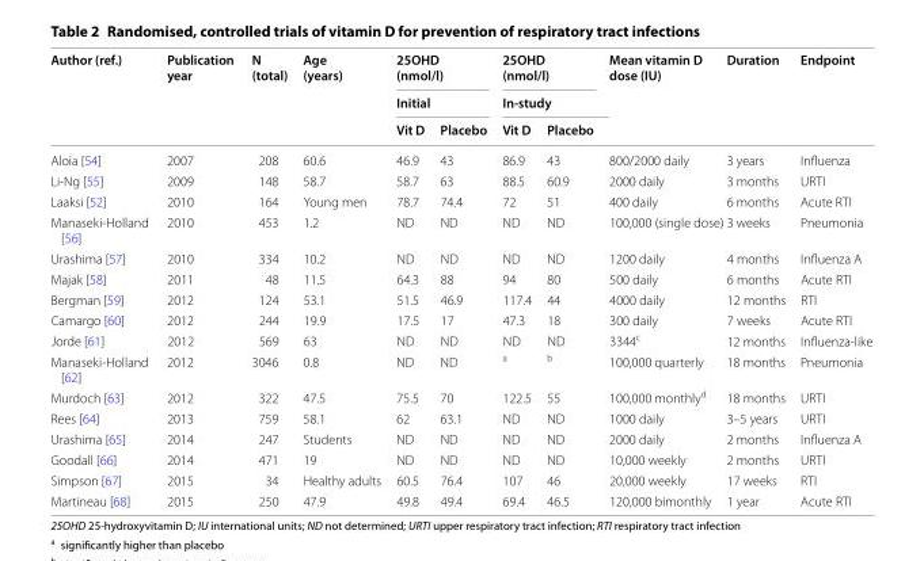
<table><thead><tr><td rowspan="3">Author (ref.)</td><td rowspan="3">Publication year</td><td rowspan="3">N (total)</td><td rowspan="3">Age (years)</td><td rowspan="2" colspan="2">25OHD (nmol/l) Initial</td><td rowspan="2" colspan="2">25OHD (nmol/l) In-study</td><td rowspan="3">Mean vitamin D dose (IU)</td><td rowspan="3">Duration</td><td rowspan="3">Endpoint</td></tr><tr></tr><tr><td>Vit D</td><td>Placebo</td><td>Vit D</td><td>Placebo</td></tr></thead><tbody><tr><td>Aloia [54]</td><td>2007</td><td>208</td><td>60.6</td><td>46.9</td><td>43</td><td>86.9</td><td>43</td><td>800/2000 daily</td><td>3 years</td><td>Influenza</td></tr><tr><td>Li-Ng [55]</td><td>2009</td><td>148</td><td>58.7</td><td>58.7</td><td>63</td><td>88.5</td><td>60.9</td><td>2000 daily</td><td>3 months</td><td>URTI</td></tr><tr><td>Laaksi [52]</td><td>2010</td><td>164</td><td>Young men</td><td>78.7</td><td>74.4</td><td>72</td><td>51</td><td>400 daily</td><td>6 months</td><td>Acute RTI</td></tr><tr><td>Manaseki-Holland [56]</td><td>2010</td><td>453</td><td>1.2</td><td>ND</td><td>ND</td><td>ND</td><td>ND</td><td>100,000 (single dose)</td><td>3 weeks</td><td>Pneumonia</td></tr><tr><td>Urashima [57]</td><td>2010</td><td>334</td><td>10.2</td><td>ND</td><td>ND</td><td>ND</td><td>ND</td><td>1200 daily</td><td>4 months</td><td>Influenza A</td></tr><tr><td>Majak [58]</td><td>2011</td><td>48</td><td>11.5</td><td>64.3</td><td>88</td><td>94</td><td>80</td><td>500 daily</td><td>6 months</td><td>Acute RTI</td></tr><tr><td>Bergman [59]</td><td>2012</td><td>124</td><td>53.1</td><td>51.5</td><td>46.9</td><td>117.4</td><td>44</td><td>4000 daily</td><td>12 months</td><td>RTI</td></tr><tr><td>Camargo [60]</td><td>2012</td><td>244</td><td>19.9</td><td>17.5</td><td>17</td><td>47.3</td><td>18</td><td>300 daily</td><td>7 weeks</td><td>Acute RTI</td></tr><tr><td>Jorde [61]</td><td>2012</td><td>569</td><td>63</td><td>ND</td><td>ND</td><td>ND</td><td>ND</td><td>3344<sup>c</sup></td><td>12 months</td><td>Influenza-like</td></tr><tr><td>Manaseki-Holland [62]</td><td>2012</td><td>3046</td><td>0.8</td><td>ND</td><td>ND</td><td><sup>a</sup></td><td><sup>b</sup></td><td>100,000 quarterly</td><td>18 months</td><td>Pneumonia</td></tr><tr><td>Murdoch [63]</td><td>2012</td><td>322</td><td>47.5</td><td>75.5</td><td>70</td><td>122.5</td><td>55</td><td>100,000 monthly<sup>d</sup></td><td>18 months</td><td>URTI</td></tr><tr><td>Rees [64]</td><td>2013</td><td>759</td><td>58.1</td><td>62</td><td>63.1</td><td>ND</td><td>ND</td><td>1000 daily</td><td>3–5 years</td><td>URTI</td></tr><tr><td>Urashima [65]</td><td>2014</td><td>247</td><td>Students</td><td>ND</td><td>ND</td><td>ND</td><td>ND</td><td>2000 daily</td><td>2 months</td><td>Influenza A</td></tr><tr><td>Goodall [66]</td><td>2014</td><td>471</td><td>19</td><td>ND</td><td>ND</td><td>ND</td><td>ND</td><td>10,000 weekly</td><td>2 months</td><td>URTI</td></tr><tr><td>Simpson [67]</td><td>2015</td><td>34</td><td>Healthy adults</td><td>60.5</td><td>76.4</td><td>107</td><td>46</td><td>20,000 weekly</td><td>17 weeks</td><td>RTI</td></tr><tr><td>Martineau [68]</td><td>2015</td><td>250</td><td>47.9</td><td>49.8</td><td>49.4</td><td>69.4</td><td>46.5</td><td>120,000 bimonthly</td><td>1 year</td><td>Acute RTI</td></tr></tbody></table>